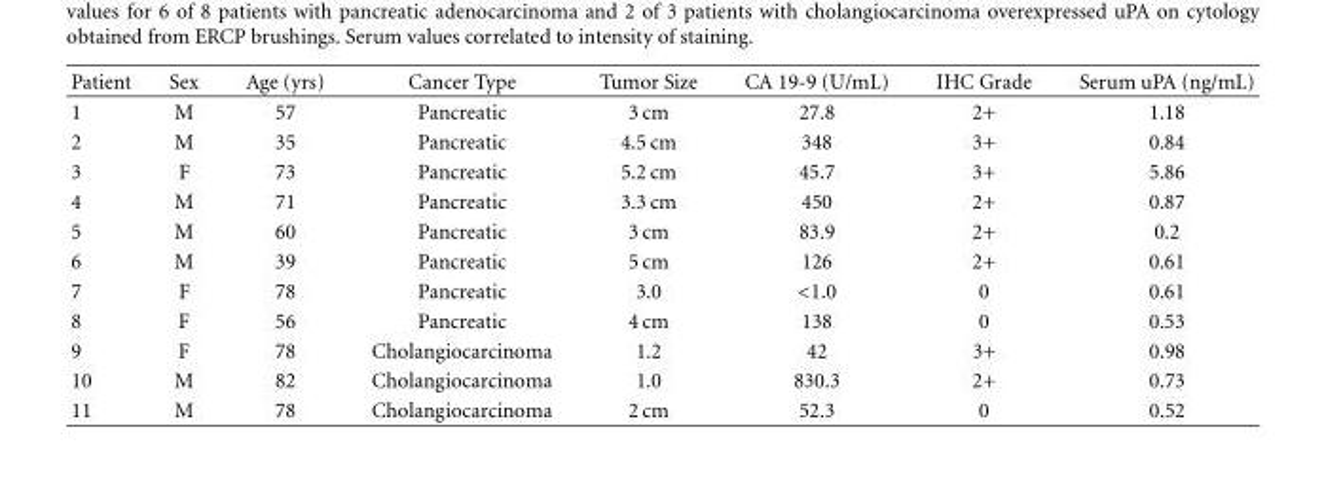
<table><thead><tr><td>Patient</td><td>Sex</td><td>Age (yrs)</td><td>Cancer Type</td><td>Tumor Size</td><td>CA 19-9 (U/mL)</td><td>IHC Grade</td><td>Serum uPA (ng/mL)</td></tr></thead><tbody><tr><td>1</td><td>M</td><td>57</td><td>Pancreatic</td><td>3 cm</td><td>27.8</td><td>2+</td><td>1.18</td></tr><tr><td>2</td><td>M</td><td>35</td><td>Pancreatic</td><td>4.5 cm</td><td>348</td><td>3+</td><td>0.84</td></tr><tr><td>3</td><td>F</td><td>73</td><td>Pancreatic</td><td>5.2 cm</td><td>45.7</td><td>3+</td><td>5.86</td></tr><tr><td>4</td><td>M</td><td>71</td><td>Pancreatic</td><td>3.3 cm</td><td>450</td><td>2+</td><td>0.87</td></tr><tr><td>5</td><td>M</td><td>60</td><td>Pancreatic</td><td>3 cm</td><td>83.9</td><td>2+</td><td>0.2</td></tr><tr><td>6</td><td>M</td><td>39</td><td>Pancreatic</td><td>5 cm</td><td>126</td><td>2+</td><td>0.61</td></tr><tr><td>7</td><td>F</td><td>78</td><td>Pancreatic</td><td>3.0</td><td>&lt;1.0</td><td>0</td><td>0.61</td></tr><tr><td>8</td><td>F</td><td>56</td><td>Pancreatic</td><td>4 cm</td><td>138</td><td>0</td><td>0.53</td></tr><tr><td>9</td><td>F</td><td>78</td><td>Cholangiocarcinoma</td><td>1.2</td><td>42</td><td>3+</td><td>0.98</td></tr><tr><td>10</td><td>M</td><td>82</td><td>Cholangiocarcinoma</td><td>1.0</td><td>830.3</td><td>2+</td><td>0.73</td></tr><tr><td>11</td><td>M</td><td>78</td><td>Cholangiocarcinoma</td><td>2 cm</td><td>52.3</td><td>0</td><td>0.52</td></tr></tbody></table>